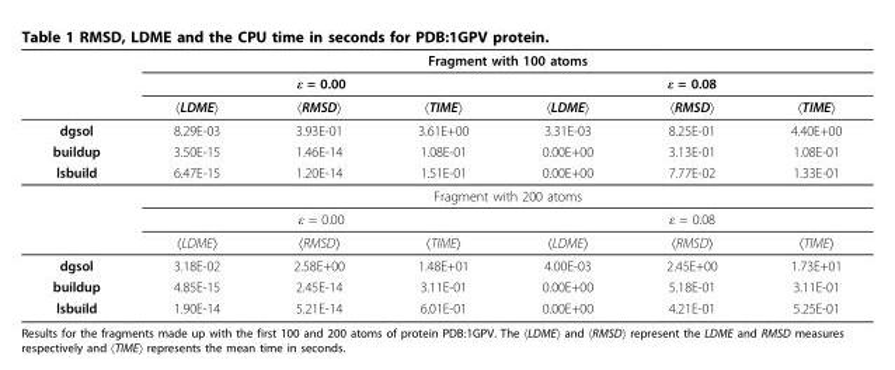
<table><thead><tr><td rowspan="3"></td><td colspan="6">Fragment with 100 atoms</td></tr><tr><td colspan="3">ε = 0.00</td><td colspan="3">ε = 0.08</td></tr><tr><td>〈LDME〉</td><td>〈RMSD〉</td><td>〈TIME〉</td><td>〈LDME〉</td><td>〈RMSD〉</td><td>〈TIME〉</td></tr></thead><tbody><tr><td>dgsol</td><td>8.29E-03</td><td>3.93E-01</td><td>3.61E+00</td><td>3.31E-03</td><td>8.25E-01</td><td>4.40E+00</td></tr><tr><td>buildup</td><td>3.50E-15</td><td>1.46E-14</td><td>1.08E-01</td><td>0.00E+00</td><td>3.13E-01</td><td>1.08E-01</td></tr><tr><td rowspan="4">lsbuild</td><td>6.47E-15</td><td>1.20E-14</td><td>1.51E-01</td><td>0.00E+00</td><td>7.77E-02</td><td>1.33E-01</td></tr><tr><td colspan="6">Fragment with 200 atoms</td></tr><tr><td colspan="3">ε = 0.00</td><td colspan="3">ε = 0.08</td></tr><tr><td>〈LDME〉</td><td>〈RMSD〉</td><td>〈TIME〉</td><td>〈LDME〉</td><td>〈RMSD〉</td><td>〈TIME〉</td></tr><tr><td>dgsol</td><td>3.18E-02</td><td>2.58E+00</td><td>1.48E+01</td><td>4.00E-03</td><td>2.45E+00</td><td>1.73E+01</td></tr><tr><td>buildup</td><td>4.85E-15</td><td>2.45E-14</td><td>3.11E-01</td><td>0.00E+00</td><td>5.18E-01</td><td>3.11E-01</td></tr><tr><td>lsbuild</td><td>1.90E-14</td><td>5.21E-14</td><td>6.01E-01</td><td>0.00E+00</td><td>4.21E-01</td><td>5.25E-01</td></tr></tbody></table>